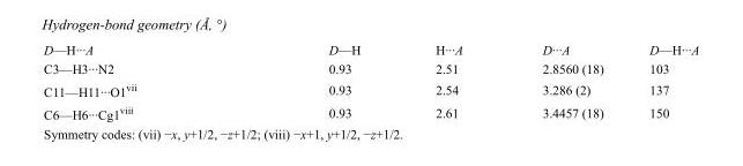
<table><tbody><tr><td>D—H···A</td><td>D—H</td><td>H···A</td><td>D···A</td><td>D—H···A</td></tr><tr><td>C3—H3···N2</td><td>0.93</td><td>2.51</td><td>2.8560 (18)</td><td>103</td></tr><tr><td>C11—H11···O1<sup>vii</sup></td><td>0.93</td><td>2.54</td><td>3.286 (2)</td><td>137</td></tr><tr><td>C6—H6···Cg1<sup>viii</sup></td><td>0.93</td><td>2.61</td><td>3.4457 (18)</td><td>150</td></tr></tbody></table>